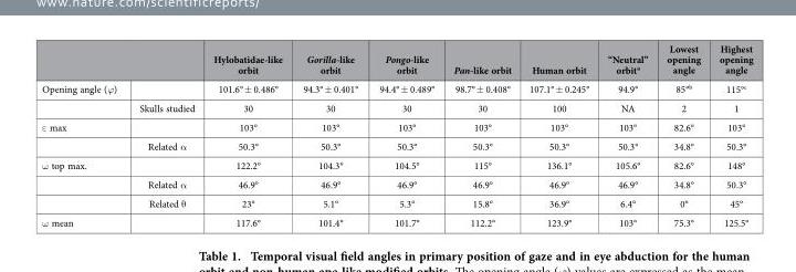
<table><thead><tr><td></td><td></td><td>Hylobatidae-like orbit</td><td>Gorilla-like orbit</td><td>Pongo-like orbit</td><td>Pan-like orbit</td><td>Human orbit</td><td>“Neutral” orbit<sup>a</sup></td><td>Lowest opening angle</td><td>Highest opening angle</td></tr></thead><tbody><tr><td rowspan="2">Opening angle (ϕ)</td><td></td><td>101.6° ± 0.486°</td><td>94.3° ± 0.401°</td><td>94.4° ± 0.489°</td><td>98.7° ± 0.408°</td><td>107.1° ± 0.245°</td><td>94.9°</td><td>85°<sup>b</sup></td><td>115°<sup>c</sup></td></tr><tr><td>Skulls studied</td><td>30</td><td>30</td><td>30</td><td>30</td><td>100</td><td>NA</td><td>2</td><td>1</td></tr><tr><td rowspan="2">ε max</td><td></td><td>103°</td><td>103°</td><td>103°</td><td>103°</td><td>103°</td><td>103°</td><td>82.6°</td><td>103°</td></tr><tr><td>Related α</td><td>50.3°</td><td>50.3°</td><td>50.3°</td><td>50.3°</td><td>50.3°</td><td>50.3°</td><td>34.8°</td><td>50.3°</td></tr><tr><td rowspan="3">ω top max.</td><td></td><td>122.2°</td><td>104.3°</td><td>104.5°</td><td>115°</td><td>136.1°</td><td>105.6°</td><td>82.6°</td><td>148°</td></tr><tr><td>Related α</td><td>46.9°</td><td>46.9°</td><td>46.9°</td><td>46.9°</td><td>46.9°</td><td>46.9°</td><td>34.8°</td><td>50.3°</td></tr><tr><td>Related θ</td><td>23°</td><td>5.1°</td><td>5.3°</td><td>15.8°</td><td>36.9°</td><td>6.4°</td><td>0°</td><td>45°</td></tr><tr><td>ω mean</td><td></td><td>117.6°</td><td>101.4°</td><td>101.7°</td><td>112.2°</td><td>123.9°</td><td>103°</td><td>75.3°</td><td>125.5°</td></tr></tbody></table>